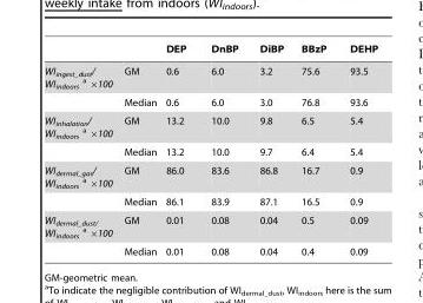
<table><thead><tr><td></td><td></td><td>DEP</td><td>DnBP</td><td>DiBP</td><td>BBzP</td><td>DEHP</td></tr></thead><tbody><tr><td rowspan="2">WI<sub>ingest_dust</sub>/ WI<sub>indoors</sub> a ×100</td><td>GM</td><td>0.6</td><td>6.0</td><td>3.2</td><td>75.6</td><td>93.5</td></tr><tr><td>Median</td><td>0.6</td><td>6.0</td><td>3.0</td><td>76.8</td><td>93.6</td></tr><tr><td rowspan="2">WI<sub>inhalation</sub>/ WI<sub>indoors</sub> a ×100</td><td>GM</td><td>13.2</td><td>10.0</td><td>9.8</td><td>6.5</td><td>5.4</td></tr><tr><td>Median</td><td>13.2</td><td>10.0</td><td>9.7</td><td>6.4</td><td>5.4</td></tr><tr><td rowspan="2">WI<sub>dermal_gas</sub>/ WI<sub>indoors</sub> a ×100</td><td>GM</td><td>86.0</td><td>83.6</td><td>86.8</td><td>16.7</td><td>0.9</td></tr><tr><td>Median</td><td>86.1</td><td>83.9</td><td>87.1</td><td>16.5</td><td>0.9</td></tr><tr><td rowspan="2">WI<sub>dermal_dust/</sub> WI<sub>indoors</sub> a ×100</td><td>GM</td><td>0.01</td><td>0.08</td><td>0.04</td><td>0.5</td><td>0.09</td></tr><tr><td>Median</td><td>0.01</td><td>0.08</td><td>0.04</td><td>0.4</td><td>0.09</td></tr></tbody></table>